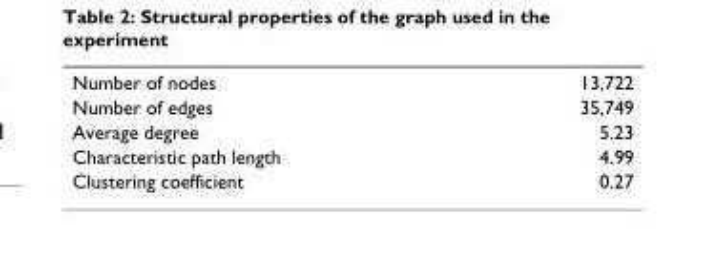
<table><tbody><tr><td>Number of nodes</td><td>13,722</td></tr><tr><td>Number of edges</td><td>35,749</td></tr><tr><td>Average degree</td><td>5.23</td></tr><tr><td>Characteristic path length</td><td>4.99</td></tr><tr><td>Clustering coefficient</td><td>0.27</td></tr></tbody></table>